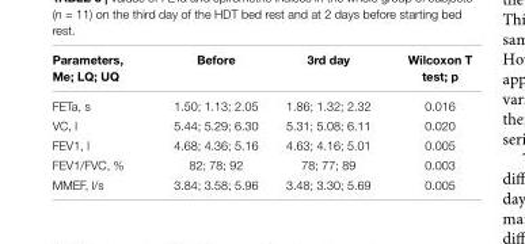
<table><thead><tr><td>Parameters, Me; LQ; UQ</td><td>Before</td><td>3rd day</td><td>Wilcoxon T test; p</td></tr></thead><tbody><tr><td>FETa, s</td><td>1.50; 1.13; 2.05</td><td>1.86; 1.32; 2.32</td><td>0.016</td></tr><tr><td>VC, l</td><td>5.44; 5.29; 6.30</td><td>5.31; 5.08; 6.11</td><td>0.020</td></tr><tr><td>FEV1, l</td><td>4.68; 4.36; 5.16</td><td>4.63; 4.16; 5.01</td><td>0.005</td></tr><tr><td>FEV1/FVC, %</td><td>82; 78; 92</td><td>78; 77; 89</td><td>0.003</td></tr><tr><td>MMEF, l/s</td><td>3.84; 3.58; 5.96</td><td>3.48; 3.30; 5.69</td><td>0.005</td></tr></tbody></table>